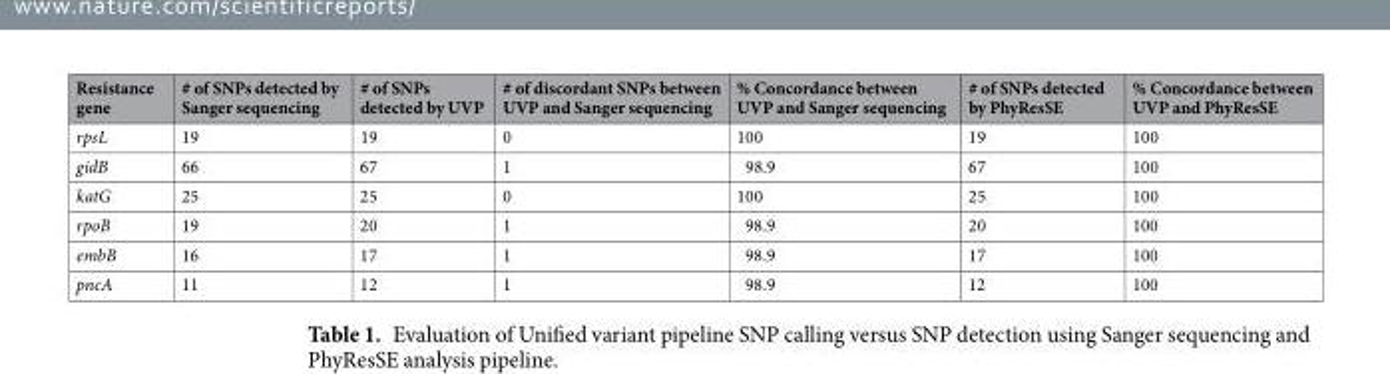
<table><thead><tr><td>Resistance gene</td><td># of SNPs detected by Sanger sequencing</td><td># of SNPs detected by UVP</td><td># of discordant SNPs between UVP and Sanger sequencing</td><td>% Concordance between UVP and Sanger sequencing</td><td># of SNPs detected by PhyResSE</td><td>% Concordance between UVP and PhyResSE</td></tr></thead><tbody><tr><td>rpsL</td><td>19</td><td>19</td><td>0</td><td>100</td><td>19</td><td>100</td></tr><tr><td>gidB</td><td>66</td><td>67</td><td>1</td><td>98.9</td><td>67</td><td>100</td></tr><tr><td>katG</td><td>25</td><td>25</td><td>0</td><td>100</td><td>25</td><td>100</td></tr><tr><td>rpoB</td><td>19</td><td>20</td><td>1</td><td>98.9</td><td>20</td><td>100</td></tr><tr><td>embB</td><td>16</td><td>17</td><td>1</td><td>98.9</td><td>17</td><td>100</td></tr><tr><td>pncA</td><td>11</td><td>12</td><td>1</td><td>98.9</td><td>12</td><td>100</td></tr></tbody></table>